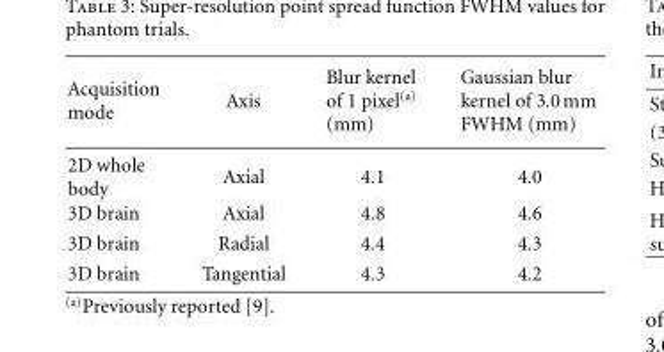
<table><tbody><tr><td>Acquisition mode</td><td>Axis</td><td>Blur kernel of 1 pixel<sup>(a)</sup> (mm)</td><td>Gaussian blur kernel of 3.0mm FWHM (mm)</td></tr><tr><td>2D whole body</td><td>Axial</td><td>4.1</td><td>4.0</td></tr><tr><td>3D brain</td><td>Axial</td><td>4.8</td><td>4.6</td></tr><tr><td>3D brain</td><td>Radial</td><td>4.4</td><td>4.3</td></tr><tr><td>3D brain</td><td>Tangential</td><td>4.3</td><td>4.2</td></tr></tbody></table>